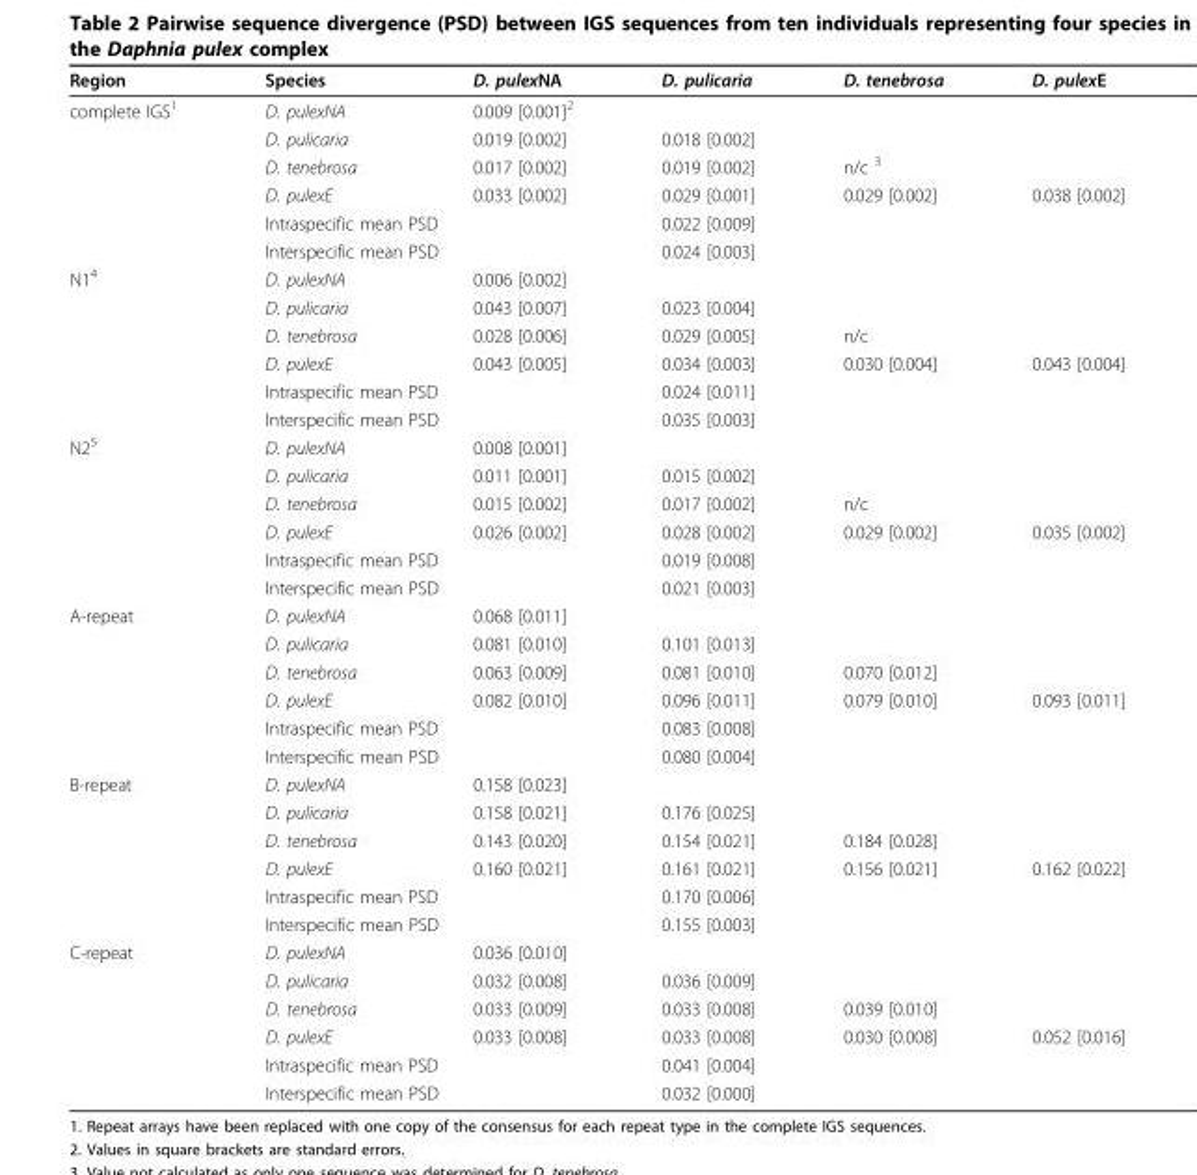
<table><thead><tr><td>Region</td><td>Species</td><td>D. pulexNA</td><td>D. pulicaria</td><td>D. tenebrosa</td><td>D. pulexE</td></tr></thead><tbody><tr><td rowspan="6">complete IGS<sup>1</sup></td><td>D. pulexNA</td><td>0.009 [0.001]<sup>2</sup></td><td></td><td></td><td></td></tr><tr><td>D. pulicaria</td><td>0.019 [0.002]</td><td>0.018 [0.002]</td><td></td><td></td></tr><tr><td>D. tenebrosa</td><td>0.017 [0.002]</td><td>0.019 [0.002]</td><td>n/c <sup>3</sup></td><td></td></tr><tr><td>D. pulexE</td><td>0.033 [0.002]</td><td>0.029 [0.001]</td><td>0.029 [0.002]</td><td>0.038 [0.002]</td></tr><tr><td colspan="2">Intraspecific mean PSD</td><td>0.022 [0.009]</td><td></td><td></td></tr><tr><td colspan="2">Interspecific mean PSD</td><td>0.024 [0.003]</td><td></td><td></td></tr><tr><td rowspan="6">N1<sup>4</sup></td><td>D. pulexNA</td><td>0.006 [0.002]</td><td></td><td></td><td></td></tr><tr><td>D. pulicaria</td><td>0.043 [0.007]</td><td>0.023 [0.004]</td><td></td><td></td></tr><tr><td>D. tenebrosa</td><td>0.028 [0.006]</td><td>0.029 [0.005]</td><td>n/c</td><td></td></tr><tr><td>D. pulexE</td><td>0.043 [0.005]</td><td>0.034 [0.003]</td><td>0.030 [0.004]</td><td>0.043 [0.004]</td></tr><tr><td colspan="2">Intraspecific mean PSD</td><td>0.024 [0.011]</td><td></td><td></td></tr><tr><td colspan="2">Interspecific mean PSD</td><td>0.035 [0.003]</td><td></td><td></td></tr><tr><td rowspan="6">N2<sup>5</sup></td><td>D. pulexNA</td><td>0.008 [0.001]</td><td></td><td></td><td></td></tr><tr><td>D. pulicaria</td><td>0.011 [0.001]</td><td>0.015 [0.002]</td><td></td><td></td></tr><tr><td>D. tenebrosa</td><td>0.015 [0.002]</td><td>0.017 [0.002]</td><td>n/c</td><td></td></tr><tr><td>D. pulexE</td><td>0.026 [0.002]</td><td>0.028 [0.002]</td><td>0.029 [0.002]</td><td>0.035 [0.002]</td></tr><tr><td colspan="2">Intraspecific mean PSD</td><td>0.019 [0.008]</td><td></td><td></td></tr><tr><td colspan="2">Interspecific mean PSD</td><td>0.021 [0.003]</td><td></td><td></td></tr><tr><td rowspan="6">A-repeat</td><td>D. pulexNA</td><td>0.068 [0.011]</td><td></td><td></td><td></td></tr><tr><td>D. pulicaria</td><td>0.081 [0.010]</td><td>0.101 [0.013]</td><td></td><td></td></tr><tr><td>D. tenebrosa</td><td>0.063 [0.009]</td><td>0.081 [0.010]</td><td>0.070 [0.012]</td><td></td></tr><tr><td>D. pulexE</td><td>0.082 [0.010]</td><td>0.096 [0.011]</td><td>0.079 [0.010]</td><td>0.093 [0.011]</td></tr><tr><td colspan="2">Intraspecific mean PSD</td><td>0.083 [0.008]</td><td></td><td></td></tr><tr><td colspan="2">Interspecific mean PSD</td><td>0.080 [0.004]</td><td></td><td></td></tr><tr><td rowspan="6">B-repeat</td><td>D. pulexNA</td><td>0.158 [0.023]</td><td></td><td></td><td></td></tr><tr><td>D. pulicaria</td><td>0.158 [0.021]</td><td>0.176 [0.025]</td><td></td><td></td></tr><tr><td>D. tenebrosa</td><td>0.143 [0.020]</td><td>0.154 [0.021]</td><td>0.184 [0.028]</td><td></td></tr><tr><td>D. pulexE</td><td>0.160 [0.021]</td><td>0.161 [0.021]</td><td>0.156 [0.021]</td><td>0.162 [0.022]</td></tr><tr><td colspan="2">Intraspecific mean PSD</td><td>0.170 [0.006]</td><td></td><td></td></tr><tr><td colspan="2">Interspecific mean PSD</td><td>0.155 [0.003]</td><td></td><td></td></tr><tr><td rowspan="6">C-repeat</td><td>D. pulexNA</td><td>0.036 [0.010]</td><td></td><td></td><td></td></tr><tr><td>D. pulicaria</td><td>0.032 [0.008]</td><td>0.036 [0.009]</td><td></td><td></td></tr><tr><td>D. tenebrosa</td><td>0.033 [0.009]</td><td>0.033 [0.008]</td><td>0.039 [0.010]</td><td></td></tr><tr><td>D. pulexE</td><td>0.033 [0.008]</td><td>0.033 [0.008]</td><td>0.030 [0.008]</td><td>0.052 [0.016]</td></tr><tr><td colspan="2">Intraspecific mean PSD</td><td>0.041 [0.004]</td><td></td><td></td></tr><tr><td colspan="2">Interspecific mean PSD</td><td>0.032 [0.000]</td><td></td><td></td></tr></tbody></table>